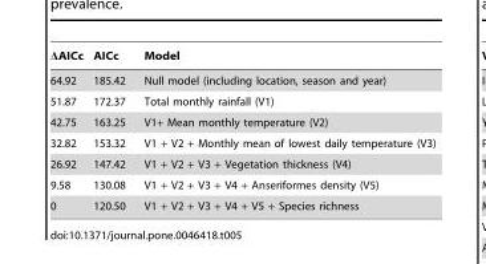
<table><thead><tr><td>ΔAICc</td><td>AICc</td><td>Model</td></tr></thead><tbody><tr><td>64.92</td><td>185.42</td><td>Null model (including location, season and year)</td></tr><tr><td>51.87</td><td>172.37</td><td>Total monthly rainfall (V1)</td></tr><tr><td>42.75</td><td>163.25</td><td>V1+ Mean monthly temperature (V2)</td></tr><tr><td>32.82</td><td>153.32</td><td>V1 + V2 + Monthly mean of lowest daily temperature (V3)</td></tr><tr><td>26.92</td><td>147.42</td><td>V1 + V2 + V3 + Vegetation thickness (V4)</td></tr><tr><td>9.58</td><td>130.08</td><td>V1 + V2 + V3 + V4 + Anseriformes density (V5)</td></tr><tr><td>0</td><td>120.50</td><td>V1 + V2 + V3 + V4 + V5 + Species richness</td></tr></tbody></table>